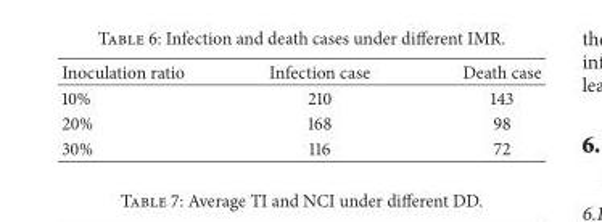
<table><thead><tr><td>Inoculation ratio</td><td>Infection case</td><td>Death case</td></tr></thead><tbody><tr><td>10%</td><td>210</td><td>143</td></tr><tr><td>20%</td><td>168</td><td>98</td></tr><tr><td>30%</td><td>116</td><td>72</td></tr></tbody></table>